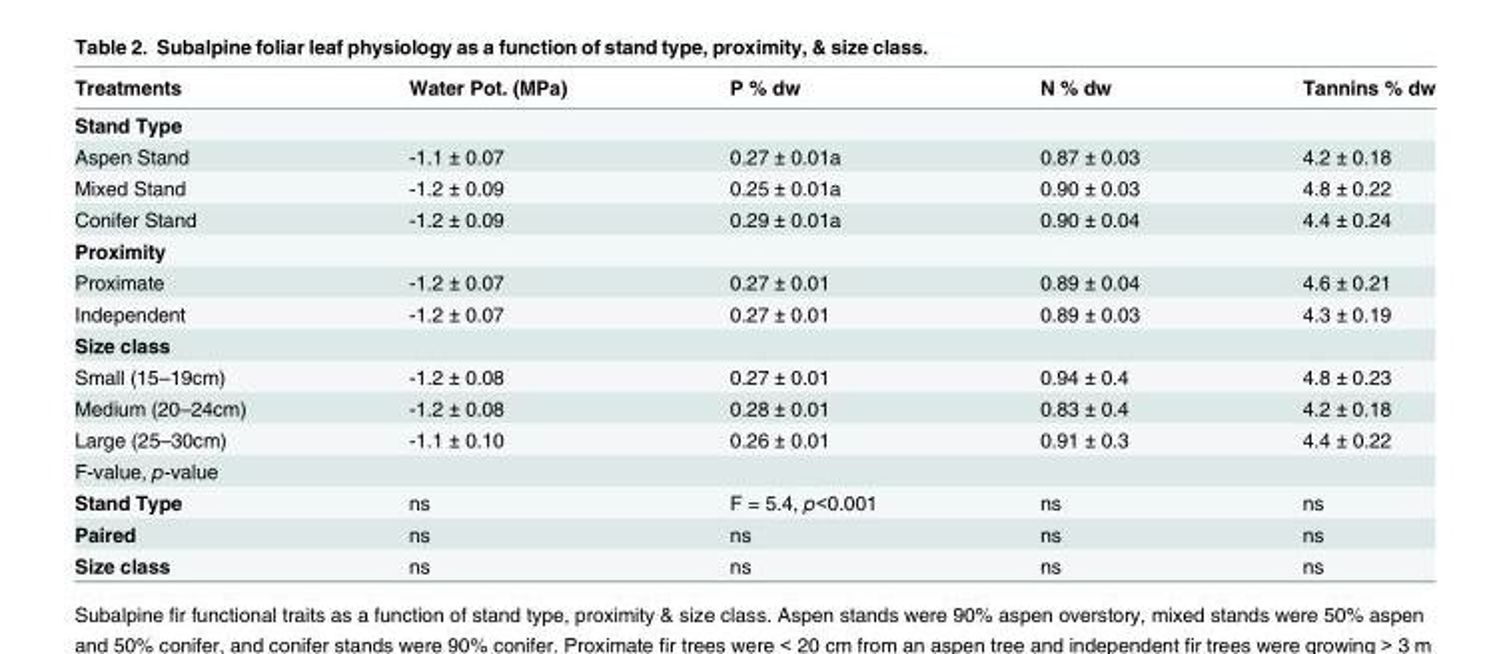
<table><thead><tr><td>Treatments</td><td>Water Pot. (MPa)</td><td>P % dw</td><td>N % dw</td><td>Tannins % dw</td></tr></thead><tbody><tr><td colspan="5">Stand Type</td></tr><tr><td>Aspen Stand</td><td>-1.1 ± 0.07</td><td>0.27 ± 0.01a</td><td>0.87 ± 0.03</td><td>4.2 ± 0.18</td></tr><tr><td>Mixed Stand</td><td>-1.2 ± 0.09</td><td>0.25 ± 0.01a</td><td>0.90 ± 0.03</td><td>4.8 ± 0.22</td></tr><tr><td>Conifer Stand</td><td>-1.2 ± 0.09</td><td>0.29 ± 0.01a</td><td>0.90 ± 0.04</td><td>4.4 ± 0.24</td></tr><tr><td colspan="5">Proximity</td></tr><tr><td>Proximate</td><td>-1.2 ± 0.07</td><td>0.27 ± 0.01</td><td>0.89 ± 0.04</td><td>4.6 ± 0.21</td></tr><tr><td>Independent</td><td>-1.2 ± 0.07</td><td>0.27 ± 0.01</td><td>0.89 ± 0.03</td><td>4.3 ± 0.19</td></tr><tr><td colspan="5">Size class</td></tr><tr><td>Small (15–19cm)</td><td>-1.2 ± 0.08</td><td>0.27 ± 0.01</td><td>0.94 ± 0.4</td><td>4.8 ± 0.23</td></tr><tr><td>Medium (20–24cm)</td><td>-1.2 ± 0.08</td><td>0.28 ± 0.01</td><td>0.83 ± 0.4</td><td>4.2 ± 0.18</td></tr><tr><td>Large (25–30cm)</td><td>-1.1 ± 0.10</td><td>0.26 ± 0.01</td><td>0.91 ± 0.3</td><td>4.4 ± 0.22</td></tr><tr><td colspan="5">F-value, p-value</td></tr><tr><td>Stand Type</td><td>ns</td><td>F = 5.4, p&lt;0.001</td><td>ns</td><td>ns</td></tr><tr><td>Paired</td><td>ns</td><td>ns</td><td>ns</td><td>ns</td></tr><tr><td>Size class</td><td>ns</td><td>ns</td><td>ns</td><td>ns</td></tr></tbody></table>